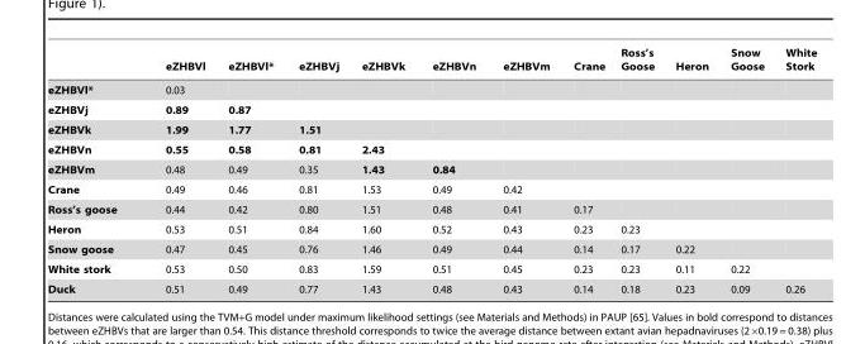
<table><thead><tr><td></td><td>eZHBVl</td><td>eZHBVl*</td><td>eZHBVj</td><td>eZHBVk</td><td>eZHBVn</td><td>eZHBVm</td><td>Crane</td><td>Ross’s Goose</td><td>Heron</td><td>Snow Goose</td><td>White Stork</td></tr></thead><tbody><tr><td>eZHBVl*</td><td>0.03</td><td></td><td></td><td></td><td></td><td></td><td></td><td></td><td></td><td></td><td></td></tr><tr><td>eZHBVj</td><td>0.89</td><td>0.87</td><td></td><td></td><td></td><td></td><td></td><td></td><td></td><td></td><td></td></tr><tr><td>eZHBVk</td><td>1.99</td><td>1.77</td><td>1.51</td><td></td><td></td><td></td><td></td><td></td><td></td><td></td><td></td></tr><tr><td>eZHBVn</td><td>0.55</td><td>0.58</td><td>0.81</td><td>2.43</td><td></td><td></td><td></td><td></td><td></td><td></td><td></td></tr><tr><td>eZHBVm</td><td>0.48</td><td>0.49</td><td>0.35</td><td>1.43</td><td>0.84</td><td></td><td></td><td></td><td></td><td></td><td></td></tr><tr><td>Crane</td><td>0.49</td><td>0.46</td><td>0.81</td><td>1.53</td><td>0.49</td><td>0.42</td><td></td><td></td><td></td><td></td><td></td></tr><tr><td>Ross’s goose</td><td>0.44</td><td>0.42</td><td>0.80</td><td>1.51</td><td>0.48</td><td>0.41</td><td>0.17</td><td></td><td></td><td></td><td></td></tr><tr><td>Heron</td><td>0.53</td><td>0.51</td><td>0.84</td><td>1.60</td><td>0.52</td><td>0.43</td><td>0.23</td><td>0.23</td><td></td><td></td><td></td></tr><tr><td>Snow goose</td><td>0.47</td><td>0.45</td><td>0.76</td><td>1.46</td><td>0.49</td><td>0.44</td><td>0.14</td><td>0.17</td><td>0.22</td><td></td><td></td></tr><tr><td>White stork</td><td>0.53</td><td>0.50</td><td>0.83</td><td>1.59</td><td>0.51</td><td>0.45</td><td>0.23</td><td>0.23</td><td>0.11</td><td>0.22</td><td></td></tr><tr><td>Duck</td><td>0.51</td><td>0.49</td><td>0.77</td><td>1.43</td><td>0.48</td><td>0.43</td><td>0.14</td><td>0.18</td><td>0.23</td><td>0.09</td><td>0.26</td></tr></tbody></table>